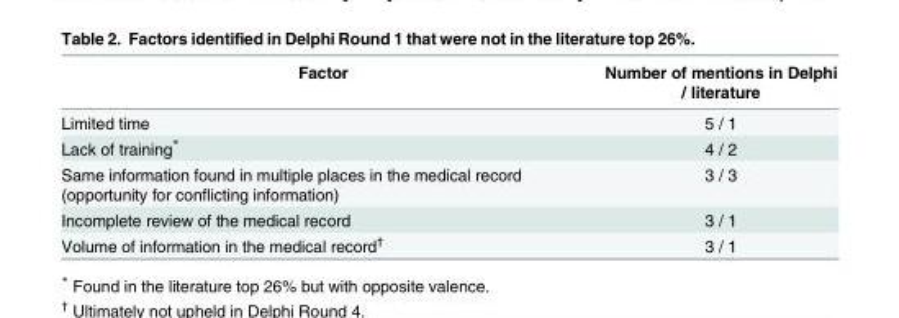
<table><thead><tr><td>Factor</td><td>Number of mentions in Delphi / literature</td></tr></thead><tbody><tr><td>Limited time</td><td>5 / 1</td></tr><tr><td>Lack of training*</td><td>4 / 2</td></tr><tr><td>Same information found in multiple places in the medical record (opportunity for conflicting information)</td><td>3 / 3</td></tr><tr><td>Incomplete review of the medical record</td><td>3 / 1</td></tr><tr><td>Volume of information in the medical record<sup>†</sup></td><td>3 / 1</td></tr></tbody></table>